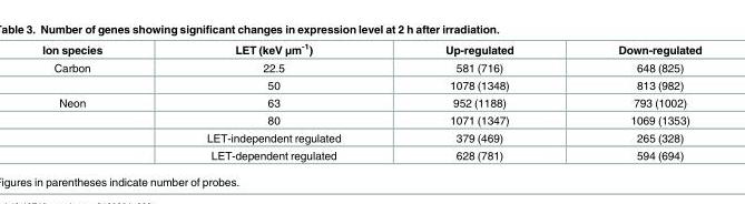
<table><thead><tr><td>Ion species</td><td>LET (keV μm<sup>-1</sup>)</td><td>Up-regulated</td><td>Down-regulated</td></tr></thead><tbody><tr><td rowspan="2">Carbon</td><td>22.5</td><td>581 (716)</td><td>648 (825)</td></tr><tr><td>50</td><td>1078 (1348)</td><td>813 (982)</td></tr><tr><td rowspan="4">Neon</td><td>63</td><td>952 (1188)</td><td>793 (1002)</td></tr><tr><td>80</td><td>1071 (1347)</td><td>1069 (1353)</td></tr><tr><td>LET-independent regulated</td><td>379 (469)</td><td>265 (328)</td></tr><tr><td>LET-dependent regulated</td><td>628 (781)</td><td>594 (694)</td></tr></tbody></table>